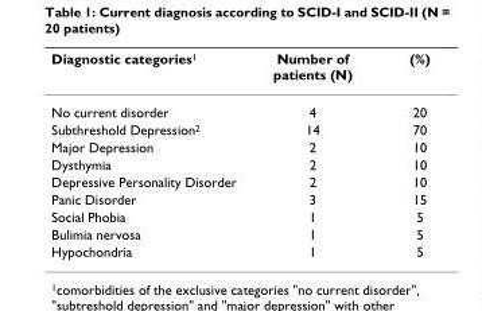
<table><thead><tr><td>Diagnostic categories<sup>1</sup></td><td>Number of patients (N)</td><td>(%)</td></tr></thead><tbody><tr><td>No current disorder</td><td>4</td><td>20</td></tr><tr><td>Subthreshold Depression<sup>2</sup></td><td>14</td><td>70</td></tr><tr><td>Major Depression</td><td>2</td><td>10</td></tr><tr><td>Dysthymia</td><td>2</td><td>10</td></tr><tr><td>Depressive Personality Disorder</td><td>2</td><td>10</td></tr><tr><td>Panic Disorder</td><td>3</td><td>15</td></tr><tr><td>Social Phobia</td><td>1</td><td>5</td></tr><tr><td>Bulimia nervosa</td><td>1</td><td>5</td></tr><tr><td>Hypochondria</td><td>1</td><td>5</td></tr></tbody></table>